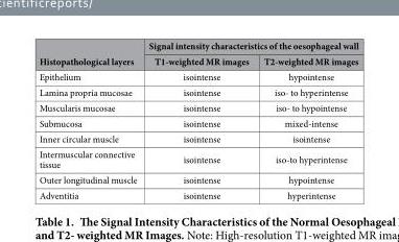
<table><thead><tr><td rowspan="2">Histopathological layers</td><td colspan="2">Signal intensity characteristics of the oesophageal wall</td></tr><tr><td>T1-weighted MR images</td><td>T2-weighted MR images</td></tr></thead><tbody><tr><td>Epithelium</td><td>isointense</td><td>hypointense</td></tr><tr><td>Lamina propria mucosae</td><td>isointense</td><td>iso- to hyperintense</td></tr><tr><td>Muscularis mucosae</td><td>isointense</td><td>iso- to hypointense</td></tr><tr><td>Submucosa</td><td>isointense</td><td>mixed-intense</td></tr><tr><td>Inner circular muscle</td><td>isointense</td><td>isointense</td></tr><tr><td>Intermuscular connective tissue</td><td>isointense</td><td>iso-to hyperintense</td></tr><tr><td>Outer longitudinal muscle</td><td>isointense</td><td>hypointense</td></tr><tr><td>Adventitia</td><td>isointense</td><td>hyperintense</td></tr></tbody></table>